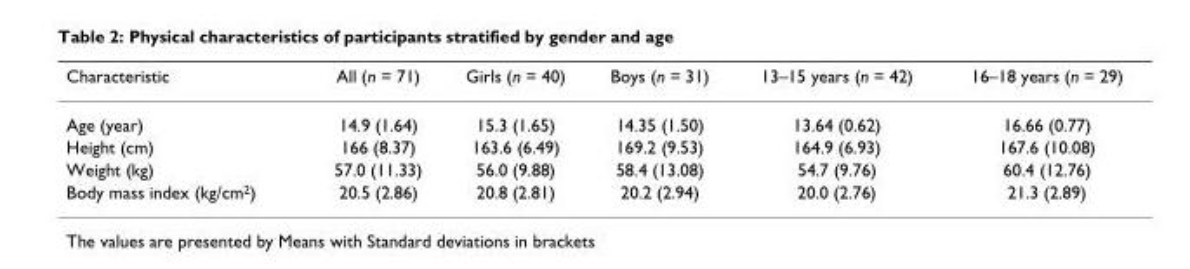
<table><thead><tr><td>Characteristic</td><td>All (n = 71)</td><td>Girls (n = 40)</td><td>Boys (n = 31)</td><td>13–15 years (n = 42)</td><td>16–18 years (n = 29)</td></tr></thead><tbody><tr><td>Age (year)</td><td>14.9 (1.64)</td><td>15.3 (1.65)</td><td>14.35 (1.50)</td><td>13.64 (0.62)</td><td>16.66 (0.77)</td></tr><tr><td>Height (cm)</td><td>166 (8.37)</td><td>163.6 (6.49)</td><td>169.2 (9.53)</td><td>164.9 (6.93)</td><td>167.6 (10.08)</td></tr><tr><td>Weight (kg)</td><td>57.0 (11.33)</td><td>56.0 (9.88)</td><td>58.4 (13.08)</td><td>54.7 (9.76)</td><td>60.4 (12.76)</td></tr><tr><td>Body mass index (kg/cm<sup>2</sup>)</td><td>20.5 (2.86)</td><td>20.8 (2.81)</td><td>20.2 (2.94)</td><td>20.0 (2.76)</td><td>21.3 (2.89)</td></tr></tbody></table>